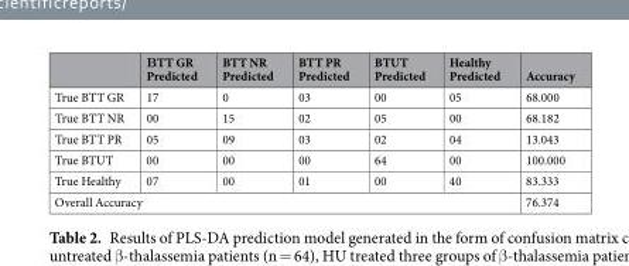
<table><thead><tr><td></td><td>ΒTT GR Predicted</td><td>BTT NR Predicted</td><td>BTT PR Predicted</td><td>BTUT Predicted</td><td>Healthy Predicted</td><td>Accuracy</td></tr></thead><tbody><tr><td>True BTT GR</td><td>17</td><td>0</td><td>03</td><td>00</td><td>05</td><td>68.000</td></tr><tr><td>True BTT NR</td><td>00</td><td>15</td><td>02</td><td>05</td><td>00</td><td>68.182</td></tr><tr><td>True BTT PR</td><td>05</td><td>09</td><td>03</td><td>02</td><td>04</td><td>13.043</td></tr><tr><td>True BTUT</td><td>00</td><td>00</td><td>00</td><td>64</td><td>00</td><td>100.000</td></tr><tr><td>True Healthy</td><td>07</td><td>00</td><td>01</td><td>00</td><td>40</td><td>83.333</td></tr><tr><td colspan="6">Overall Accuracy</td><td>76.374</td></tr></tbody></table>